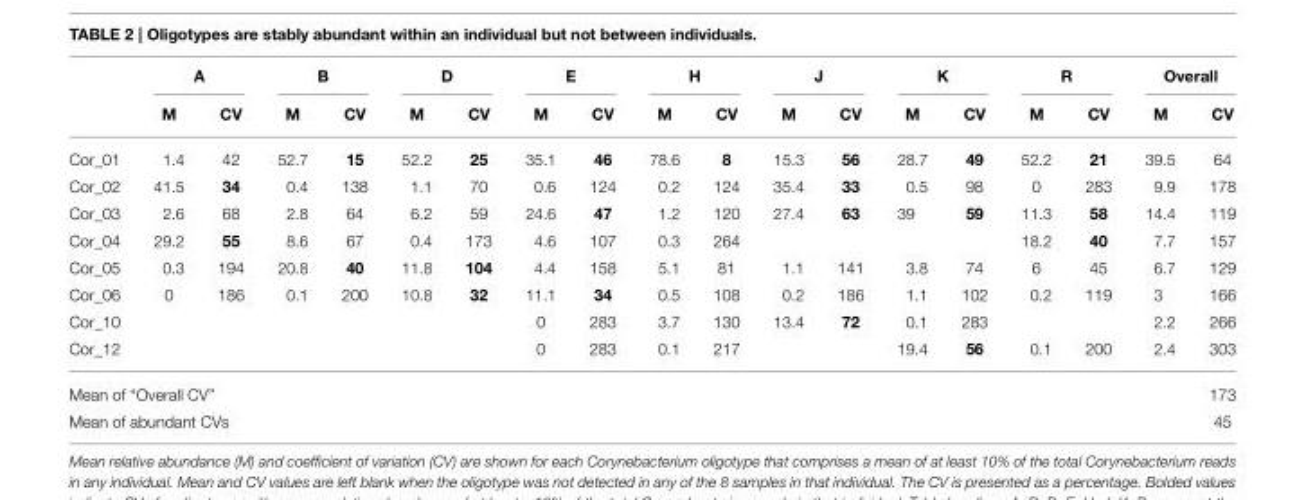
<table><thead><tr><td rowspan="2"></td><td colspan="2">A</td><td colspan="2">B</td><td colspan="2">D</td><td colspan="2">E</td><td colspan="2">H</td><td colspan="2">J</td><td colspan="2">K</td><td colspan="2">R</td><td colspan="2">Overall</td></tr><tr><td>M</td><td>CV</td><td>M</td><td>CV</td><td>M</td><td>CV</td><td>M</td><td>CV</td><td>M</td><td>CV</td><td>M</td><td>CV</td><td>M</td><td>CV</td><td>M</td><td>CV</td><td>M</td><td>CV</td></tr></thead><tbody><tr><td>Cor_01</td><td>1.4</td><td>42</td><td>52.7</td><td>15</td><td>52.2</td><td>25</td><td>35.1</td><td>46</td><td>78.6</td><td>8</td><td>15.3</td><td>56</td><td>28.7</td><td>49</td><td>52.2</td><td>21</td><td>39.5</td><td>64</td></tr><tr><td>Cor_02</td><td>41.5</td><td>34</td><td>0.4</td><td>138</td><td>1.1</td><td>70</td><td>0.6</td><td>124</td><td>0.2</td><td>124</td><td>35.4</td><td>33</td><td>0.5</td><td>98</td><td>0</td><td>283</td><td>9.9</td><td>178</td></tr><tr><td>Cor_03</td><td>2.6</td><td>68</td><td>2.8</td><td>64</td><td>6.2</td><td>59</td><td>24.6</td><td>47</td><td>1.2</td><td>120</td><td>27.4</td><td>63</td><td>39</td><td>59</td><td>11.3</td><td>58</td><td>14.4</td><td>119</td></tr><tr><td>Cor_04</td><td>29.2</td><td>55</td><td>8.6</td><td>67</td><td>0.4</td><td>173</td><td>4.6</td><td>107</td><td>0.3</td><td>264</td><td></td><td></td><td></td><td></td><td>18.2</td><td>40</td><td>7.7</td><td>157</td></tr><tr><td>Cor_05</td><td>0.3</td><td>194</td><td>20.8</td><td>40</td><td>11.8</td><td>104</td><td>4.4</td><td>158</td><td>5.1</td><td>81</td><td>1.1</td><td>141</td><td>3.8</td><td>74</td><td>6</td><td>45</td><td>6.7</td><td>129</td></tr><tr><td>Cor_06</td><td>0</td><td>186</td><td>0.1</td><td>200</td><td>10.8</td><td>32</td><td>11.1</td><td>34</td><td>0.5</td><td>108</td><td>0.2</td><td>186</td><td>1.1</td><td>102</td><td>0.2</td><td>119</td><td>3</td><td>166</td></tr><tr><td>Cor_10</td><td></td><td></td><td></td><td></td><td></td><td></td><td>0</td><td>283</td><td>3.7</td><td>130</td><td>13.4</td><td>72</td><td>0.1</td><td>283</td><td></td><td></td><td>2.2</td><td>266</td></tr><tr><td>Cor_12</td><td></td><td></td><td></td><td></td><td></td><td></td><td>0</td><td>283</td><td>0.1</td><td>217</td><td></td><td></td><td>19.4</td><td>56</td><td>0.1</td><td>200</td><td>2.4</td><td>303</td></tr><tr><td colspan="5">Mean of “Overall CV”</td><td></td><td></td><td></td><td></td><td></td><td></td><td></td><td></td><td></td><td></td><td></td><td></td><td></td><td>173</td></tr><tr><td colspan="7">Mean of abundant CVs</td><td></td><td></td><td></td><td></td><td></td><td></td><td></td><td></td><td></td><td></td><td></td><td>45</td></tr></tbody></table>